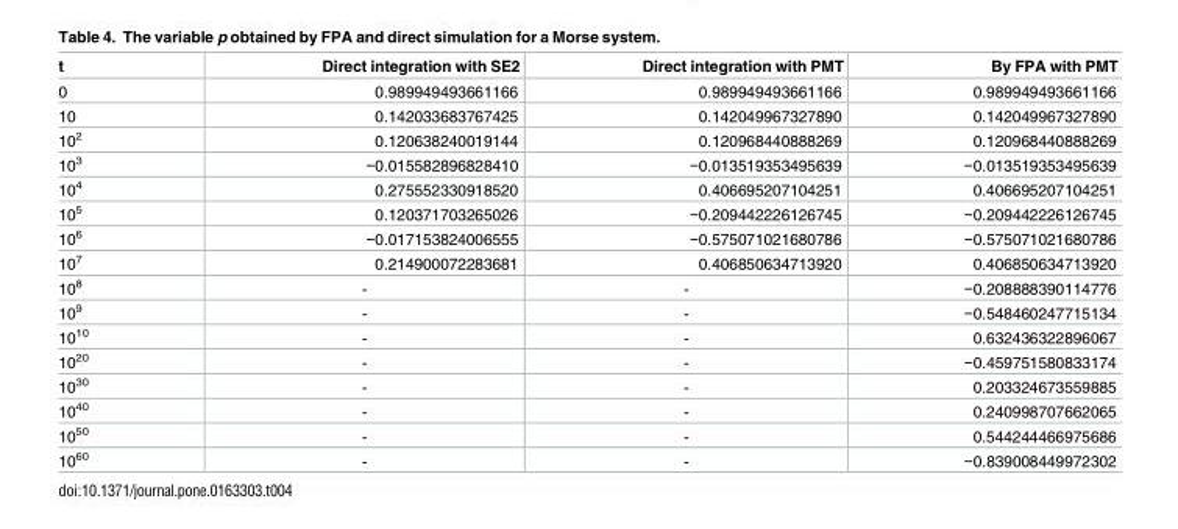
<table><thead><tr><td>t</td><td>Direct integration with SE2</td><td>Direct integration with PMT</td><td>By FPA with PMT</td></tr></thead><tbody><tr><td>0</td><td>0.989949493661166</td><td>0.989949493661166</td><td>0.989949493661166</td></tr><tr><td>10</td><td>0.142033683767425</td><td>0.142049967327890</td><td>0.142049967327890</td></tr><tr><td>10<sup>2</sup></td><td>0.120638240019144</td><td>0.120968440888269</td><td>0.120968440888269</td></tr><tr><td>10<sup>3</sup></td><td>−0.015582896828410</td><td>−0.013519353495639</td><td>−0.013519353495639</td></tr><tr><td>10<sup>4</sup></td><td>0.275552330918520</td><td>0.406695207104251</td><td>0.406695207104251</td></tr><tr><td>10<sup>5</sup></td><td>0.120371703265026</td><td>−0.209442226126745</td><td>−0.209442226126745</td></tr><tr><td>10<sup>6</sup></td><td>−0.017153824006555</td><td>−0.575071021680786</td><td>−0.575071021680786</td></tr><tr><td>10<sup>7</sup></td><td>0.214900072283681</td><td>0.406850634713920</td><td>0.406850634713920</td></tr><tr><td>10<sup>8</sup></td><td>-</td><td>-</td><td>−0.208888390114776</td></tr><tr><td>10<sup>9</sup></td><td>-</td><td>-</td><td>−0.548460247715134</td></tr><tr><td>10<sup>10</sup></td><td>-</td><td>-</td><td>0.632436322896067</td></tr><tr><td>10<sup>20</sup></td><td>-</td><td>-</td><td>−0.459751580833174</td></tr><tr><td>10<sup>30</sup></td><td>-</td><td>-</td><td>0.203324673559885</td></tr><tr><td>10<sup>40</sup></td><td>-</td><td>-</td><td>0.240998707662065</td></tr><tr><td>10<sup>50</sup></td><td>-</td><td>-</td><td>0.544244466975686</td></tr><tr><td>10<sup>60</sup></td><td>-</td><td>-</td><td>−0.839008449972302</td></tr></tbody></table>